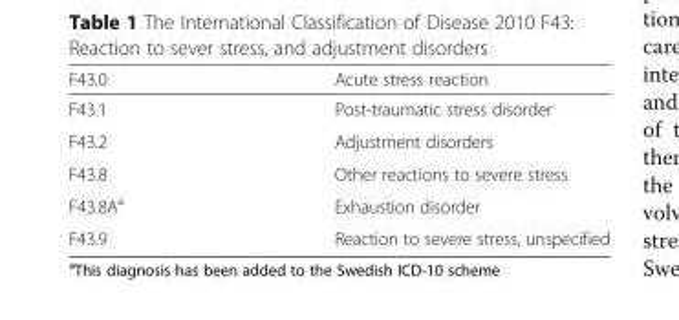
<table><thead><tr><td>F43.0</td><td>Acute stress reaction</td></tr></thead><tbody><tr><td>F43.1</td><td>Post-traumatic stress disorder</td></tr><tr><td>F43.2</td><td>Adjustment disorders</td></tr><tr><td>F43.8</td><td>Other reactions to severe stress</td></tr><tr><td>F43.8A<sup>a</sup></td><td>Exhaustion disorder</td></tr><tr><td>F43.9</td><td>Reaction to severe stress, unspecified</td></tr></tbody></table>